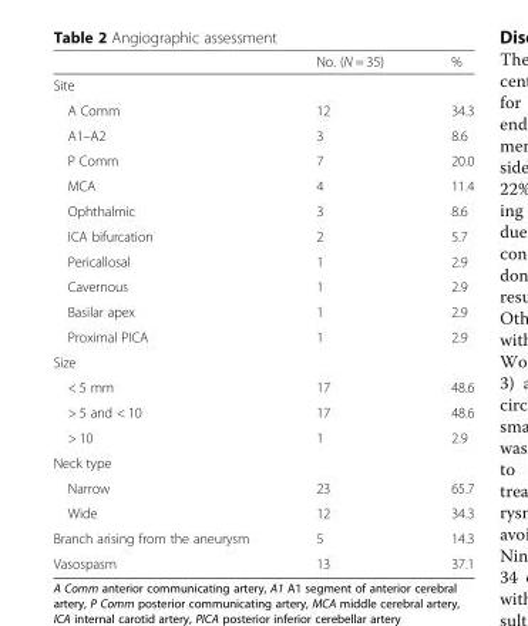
<table><thead><tr><td></td><td>No. (N = 35)</td><td>%</td></tr></thead><tbody><tr><td colspan="3">Site</td></tr><tr><td>A Comm</td><td>12</td><td>34.3</td></tr><tr><td>A1–A2</td><td>3</td><td>8.6</td></tr><tr><td>P Comm</td><td>7</td><td>20.0</td></tr><tr><td>MCA</td><td>4</td><td>11.4</td></tr><tr><td>Ophthalmic</td><td>3</td><td>8.6</td></tr><tr><td>ICA bifurcation</td><td>2</td><td>5.7</td></tr><tr><td>Pericallosal</td><td>1</td><td>2.9</td></tr><tr><td>Cavernous</td><td>1</td><td>2.9</td></tr><tr><td>Basilar apex</td><td>1</td><td>2.9</td></tr><tr><td>Proximal PICA</td><td>1</td><td>2.9</td></tr><tr><td colspan="3">Size</td></tr><tr><td>&lt; 5 mm</td><td>17</td><td>48.6</td></tr><tr><td>&gt; 5 and &lt; 10</td><td>17</td><td>48.6</td></tr><tr><td>&gt; 10</td><td>1</td><td>2.9</td></tr><tr><td colspan="3">Neck type</td></tr><tr><td>Narrow</td><td>23</td><td>65.7</td></tr><tr><td>Wide</td><td>12</td><td>34.3</td></tr><tr><td>Branch arising from the aneurysm</td><td>5</td><td>14.3</td></tr><tr><td>Vasospasm</td><td>13</td><td>37.1</td></tr></tbody></table>